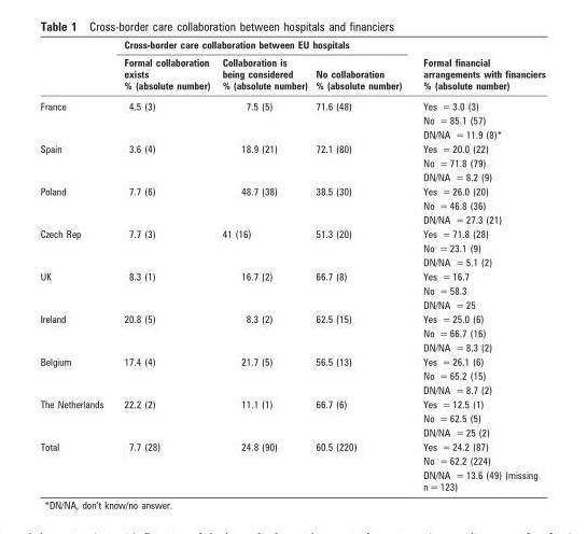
<table><thead><tr><td rowspan="2"></td><td colspan="3">Cross-border care collaboration between EU hospitals</td><td rowspan="2">Formal financial arrangements with financiers % (absolute number)</td></tr><tr><td>Formal collaboration exists % (absolute number)</td><td>Collaboration is being considered % (absolute number)</td><td>No collaboration % (absolute number)</td></tr></thead><tbody><tr><td rowspan="3">France</td><td>4.5 (3)</td><td>7.5 (5)</td><td>71.6 (48)</td><td>Yes = 3.0 (3)</td></tr><tr><td></td><td></td><td></td><td>No = 85.1 (57)</td></tr><tr><td></td><td></td><td></td><td>DN/NA = 11.9 (8)*</td></tr><tr><td rowspan="3">Spain</td><td>3.6 (4)</td><td>18.9 (21)</td><td>72.1 (80)</td><td>Yes = 20.0 (22)</td></tr><tr><td></td><td></td><td></td><td>No = 71.8 (79)</td></tr><tr><td></td><td></td><td></td><td>DN/NA = 8.2 (9)</td></tr><tr><td rowspan="3">Poland</td><td>7.7 (6)</td><td>48.7 (38)</td><td>38.5 (30)</td><td>Yes = 26.0 (20)</td></tr><tr><td></td><td></td><td></td><td>No = 46.8 (36)</td></tr><tr><td></td><td></td><td></td><td>DN/NA = 27.3 (21)</td></tr><tr><td rowspan="3">Czech Rep</td><td>7.7 (3)</td><td>41 (16)</td><td>51.3 (20)</td><td>Yes = 71.8 (28)</td></tr><tr><td></td><td></td><td></td><td>No = 23.1 (9)</td></tr><tr><td></td><td></td><td></td><td>DN/NA = 5.1 (2)</td></tr><tr><td rowspan="3">UK</td><td>8.3 (1)</td><td>16.7 (2)</td><td>66.7 (8)</td><td>Yes = 16.7</td></tr><tr><td></td><td></td><td></td><td>No = 58.3</td></tr><tr><td></td><td></td><td></td><td>DN/NA = 25</td></tr><tr><td rowspan="3">Ireland</td><td>20.8 (5)</td><td>8.3 (2)</td><td>62.5 (15)</td><td>Yes = 25.0 (6)</td></tr><tr><td></td><td></td><td></td><td>No = 66.7 (16)</td></tr><tr><td></td><td></td><td></td><td>DN/NA = 8.3 (2)</td></tr><tr><td rowspan="3">Belgium</td><td>17.4 (4)</td><td>21.7 (5)</td><td>56.5 (13)</td><td>Yes = 26.1 (6)</td></tr><tr><td></td><td></td><td></td><td>No = 65.2 (15)</td></tr><tr><td></td><td></td><td></td><td>DN/NA = 8.7 (2)</td></tr><tr><td rowspan="3">The Netherlands</td><td>22.2 (2)</td><td>11.1 (1)</td><td>66.7 (6)</td><td>Yes = 12.5 (1)</td></tr><tr><td></td><td></td><td></td><td>No = 62.5 (5)</td></tr><tr><td></td><td></td><td></td><td>DN/NA = 25 (2)</td></tr><tr><td rowspan="3">Total</td><td>7.7 (28)</td><td>24.8 (90)</td><td>60.5 (220)</td><td>Yes = 24.2 (87)</td></tr><tr><td></td><td></td><td></td><td>No = 62.2 (224)</td></tr><tr><td></td><td></td><td></td><td>DN/NA = 13.6 (49) (missing n = 123)</td></tr></tbody></table>